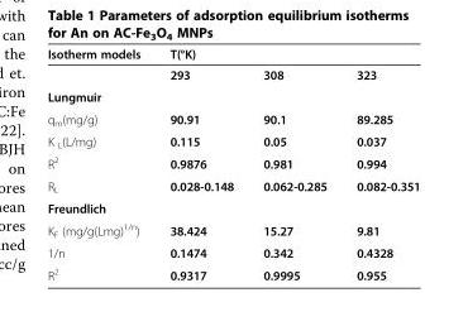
<table><thead><tr><td rowspan="2">Isotherm models</td><td colspan="3">T(°K)</td></tr><tr><td>293</td><td>308</td><td>323</td></tr></thead><tbody><tr><td colspan="4">Lungmuir</td></tr><tr><td>q<sub>m</sub>(mg/g)</td><td>90.91</td><td>90.1</td><td>89.285</td></tr><tr><td>K <sub>L</sub>(L/mg)</td><td>0.115</td><td>0.05</td><td>0.037</td></tr><tr><td>R<sup>2</sup></td><td>0.9876</td><td>0.981</td><td>0.994</td></tr><tr><td>R<sub>L</sub></td><td>0.028-0.148</td><td>0.062-0.285</td><td>0.082-0.351</td></tr><tr><td colspan="4">Freundlich</td></tr><tr><td>K<sub>F</sub> (mg/g(Lmg)<sup>1/n</sup>)</td><td>38.424</td><td>15.27</td><td>9.81</td></tr><tr><td>1/n</td><td>0.1474</td><td>0.342</td><td>0.4328</td></tr><tr><td>R<sup>2</sup></td><td>0.9317</td><td>0.9995</td><td>0.955</td></tr></tbody></table>